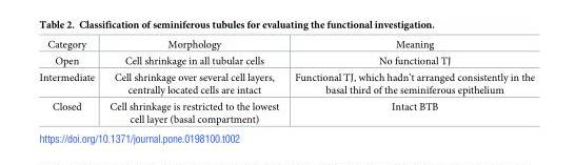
<table><tbody><tr><td>Category</td><td>Morphology</td><td>Meaning</td></tr><tr><td>Open</td><td>Cell shrinkage in all tubular cells</td><td>No functional TJ</td></tr><tr><td>Intermediate</td><td>Cell shrinkage over several cell layers, centrally located cells are intact</td><td>Functional TJ, which hadn’t arranged consistently in the basal third of the seminiferous epithelium</td></tr><tr><td>Closed</td><td>Cell shrinkage is restricted to the lowest cell layer (basal compartment)</td><td>Intact BTB</td></tr></tbody></table>